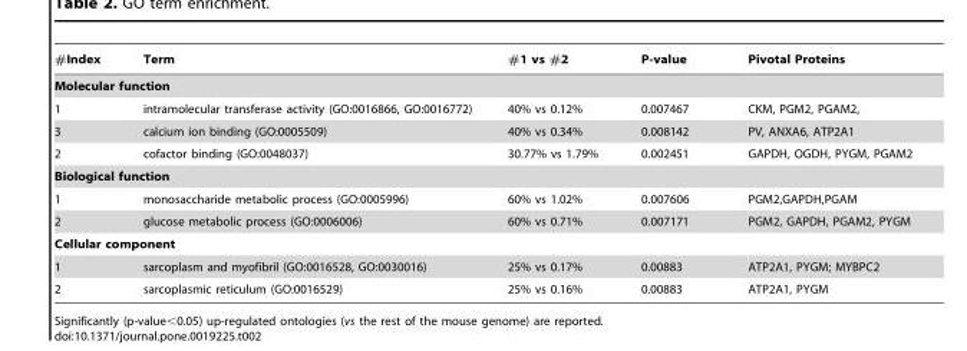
<table><thead><tr><td>#Index</td><td>Term</td><td>#1 vs #2</td><td>P-value</td><td>Pivotal Proteins</td></tr></thead><tbody><tr><td colspan="5">Molecular function</td></tr><tr><td>1</td><td>intramolecular transferase activity (GO:0016866, GO:0016772)</td><td>40% vs 0.12%</td><td>0.007467</td><td>CKM, PGM2, PGAM2,</td></tr><tr><td>3</td><td>calcium ion binding (GO:0005509)</td><td>40% vs 0.34%</td><td>0.008142</td><td>PV, ANXA6, ATP2A1</td></tr><tr><td>2</td><td>cofactor binding (GO:0048037)</td><td>30.77% vs 1.79%</td><td>0.002451</td><td>GAPDH, OGDH, PYGM, PGAM2</td></tr><tr><td colspan="5">Biological function</td></tr><tr><td>1</td><td>monosaccharide metabolic process (GO:0005996)</td><td>60% vs 1.02%</td><td>0.007606</td><td>PGM2,GAPDH,PGAM</td></tr><tr><td>2</td><td>glucose metabolic process (GO:0006006)</td><td>60% vs 0.71%</td><td>0.007171</td><td>PGM2, GAPDH, PGAM2, PYGM</td></tr><tr><td colspan="5">Cellular component</td></tr><tr><td>1</td><td>sarcoplasm and myofibril (GO:0016528, GO:0030016)</td><td>25% vs 0.17%</td><td>0.00883</td><td>ATP2A1, PYGM; MYBPC2</td></tr><tr><td>2</td><td>sarcoplasmic reticulum (GO:0016529)</td><td>25% vs 0.16%</td><td>0.00883</td><td>ATP2A1, PYGM</td></tr></tbody></table>